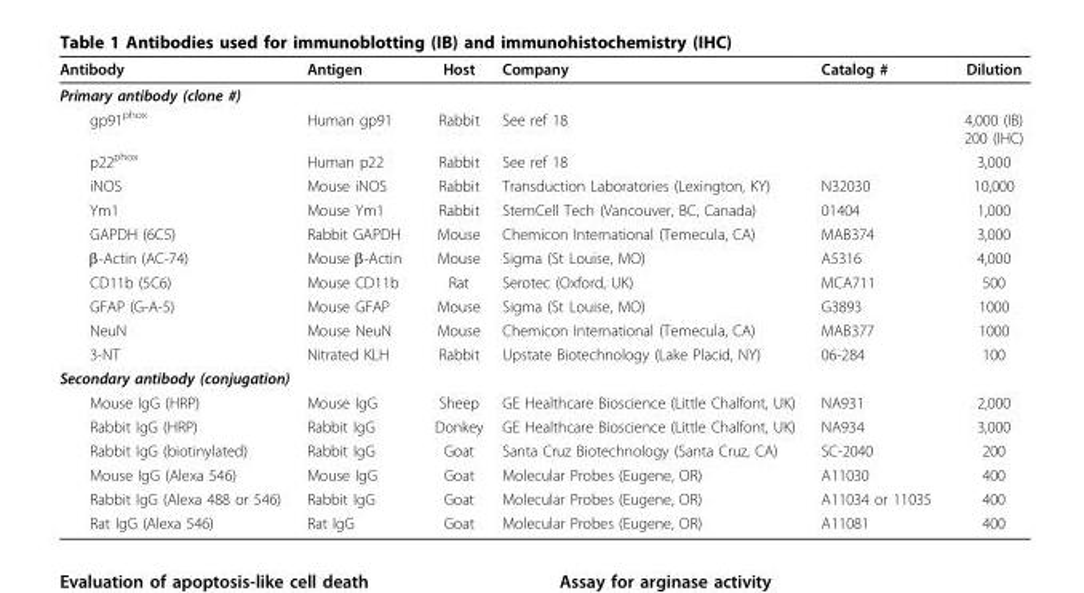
<table><thead><tr><td>Antibody</td><td>Antigen</td><td>Host</td><td>Company</td><td>Catalog #</td><td>Dilution</td></tr></thead><tbody><tr><td colspan="6">Primary antibody (clone #)</td></tr><tr><td>gp91<sup>phox</sup></td><td>Human gp91</td><td>Rabbit</td><td>See ref 18</td><td></td><td>4,000 (IB) 200 (IHC)</td></tr><tr><td>p22<sup>phox</sup></td><td>Human p22</td><td>Rabbit</td><td>See ref 18</td><td></td><td>3,000</td></tr><tr><td>iNOS</td><td>Mouse iNOS</td><td>Rabbit</td><td>Transduction Laboratories (Lexington, KY)</td><td>N32030</td><td>10,000</td></tr><tr><td>Ym1</td><td>Mouse Ym1</td><td>Rabbit</td><td>StemCell Tech (Vancouver, BC, Canada)</td><td>01404</td><td>1,000</td></tr><tr><td>GAPDH (6C5)</td><td>Rabbit GAPDH</td><td>Mouse</td><td>Chemicon International (Temecula, CA)</td><td>MAB374</td><td>3,000</td></tr><tr><td>β-Actin (AC-74)</td><td>Mouse β-Actin</td><td>Mouse</td><td>Sigma (St Louise, MO)</td><td>A5316</td><td>4,000</td></tr><tr><td>CD11b (5C6)</td><td>Mouse CD11b</td><td>Rat</td><td>Serotec (Oxford, UK)</td><td>MCA711</td><td>500</td></tr><tr><td>GFAP (G-A-5)</td><td>Mouse GFAP</td><td>Mouse</td><td>Sigma (St Louise, MO)</td><td>G3893</td><td>1000</td></tr><tr><td>NeuN</td><td>Mouse NeuN</td><td>Mouse</td><td>Chemicon International (Temecula, CA)</td><td>MAB377</td><td>1000</td></tr><tr><td>3-NT</td><td>Nitrated KLH</td><td>Rabbit</td><td>Upstate Biotechnology (Lake Placid, NY)</td><td>06-284</td><td>100</td></tr><tr><td colspan="6">Secondary antibody (conjugation)</td></tr><tr><td>Mouse IgG (HRP)</td><td>Mouse IgG</td><td>Sheep</td><td>GE Healthcare Bioscience (Little Chalfont, UK)</td><td>NA931</td><td>2,000</td></tr><tr><td>Rabbit IgG (HRP)</td><td>Rabbit IgG</td><td>Donkey</td><td>GE Healthcare Bioscience (Little Chalfont, UK)</td><td>NA934</td><td>3,000</td></tr><tr><td>Rabbit IgG (biotinylated)</td><td>Rabbit IgG</td><td>Goat</td><td>Santa Cruz Biotechnology (Santa Cruz, CA)</td><td>SC-2040</td><td>200</td></tr><tr><td>Mouse IgG (Alexa 546)</td><td>Mouse IgG</td><td>Goat</td><td>Molecular Probes (Eugene, OR)</td><td>A11030</td><td>400</td></tr><tr><td>Rabbit IgG (Alexa 488 or 546)</td><td>Rabbit IgG</td><td>Goat</td><td>Molecular Probes (Eugene, OR)</td><td>A11034 or 11035</td><td>400</td></tr><tr><td>Rat IgG (Alexa 546)</td><td>Rat IgG</td><td>Goat</td><td>Molecular Probes (Eugene, OR)</td><td>A11081</td><td>400</td></tr></tbody></table>